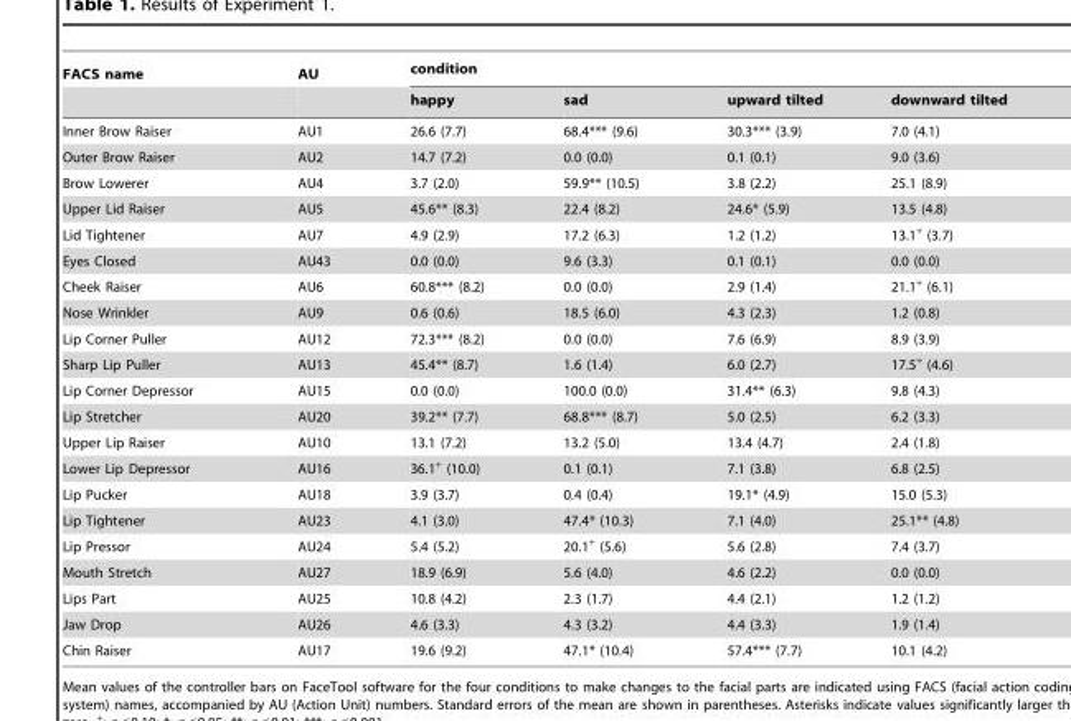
<table><thead><tr><td rowspan="2">FACS name</td><td rowspan="2">AU</td><td colspan="4">condition</td></tr><tr><td>happy</td><td>sad</td><td>upward tilted</td><td>downward tilted</td></tr></thead><tbody><tr><td>Inner Brow Raiser</td><td>AU1</td><td>26.6 (7.7)</td><td>68.4*** (9.6)</td><td>30.3*** (3.9)</td><td>7.0 (4.1)</td></tr><tr><td>Outer Brow Raiser</td><td>AU2</td><td>14.7 (7.2)</td><td>0.0 (0.0)</td><td>0.1 (0.1)</td><td>9.0 (3.6)</td></tr><tr><td>Brow Lowerer</td><td>AU4</td><td>3.7 (2.0)</td><td>59.9** (10.5)</td><td>3.8 (2.2)</td><td>25.1 (8.9)</td></tr><tr><td>Upper Lid Raiser</td><td>AU5</td><td>45.6** (8.3)</td><td>22.4 (8.2)</td><td>24.6* (5.9)</td><td>13.5 (4.8)</td></tr><tr><td>Lid Tightener</td><td>AU7</td><td>4.9 (2.9)</td><td>17.2 (6.3)</td><td>1.2 (1.2)</td><td>13.1<sup>+</sup> (3.7)</td></tr><tr><td>Eyes Closed</td><td>AU43</td><td>0.0 (0.0)</td><td>9.6 (3.3)</td><td>0.1 (0.1)</td><td>0.0 (0.0)</td></tr><tr><td>Cheek Raiser</td><td>AU6</td><td>60.8*** (8.2)</td><td>0.0 (0.0)</td><td>2.9 (1.4)</td><td>21.1<sup>+</sup> (6.1)</td></tr><tr><td>Nose Wrinkler</td><td>AU9</td><td>0.6 (0.6)</td><td>18.5 (6.0)</td><td>4.3 (2.3)</td><td>1.2 (0.8)</td></tr><tr><td>Lip Corner Puller</td><td>AU12</td><td>72.3*** (8.2)</td><td>0.0 (0.0)</td><td>7.6 (6.9)</td><td>8.9 (3.9)</td></tr><tr><td>Sharp Lip Puller</td><td>AU13</td><td>45.4** (8.7)</td><td>1.6 (1.4)</td><td>6.0 (2.7)</td><td>17.5<sup>+</sup> (4.6)</td></tr><tr><td>Lip Corner Depressor</td><td>AU15</td><td>0.0 (0.0)</td><td>100.0 (0.0)</td><td>31.4** (6.3)</td><td>9.8 (4.3)</td></tr><tr><td>Lip Stretcher</td><td>AU20</td><td>39.2** (7.7)</td><td>68.8*** (8.7)</td><td>5.0 (2.5)</td><td>6.2 (3.3)</td></tr><tr><td>Upper Lip Raiser</td><td>AU10</td><td>13.1 (7.2)</td><td>13.2 (5.0)</td><td>13.4 (4.7)</td><td>2.4 (1.8)</td></tr><tr><td>Lower Lip Depressor</td><td>AU16</td><td>36.1<sup>+</sup> (10.0)</td><td>0.1 (0.1)</td><td>7.1 (3.8)</td><td>6.8 (2.5)</td></tr><tr><td>Lip Pucker</td><td>AU18</td><td>3.9 (3.7)</td><td>0.4 (0.4)</td><td>19.1* (4.9)</td><td>15.0 (5.3)</td></tr><tr><td>Lip Tightener</td><td>AU23</td><td>4.1 (3.0)</td><td>47.4* (10.3)</td><td>7.1 (4.0)</td><td>25.1** (4.8)</td></tr><tr><td>Lip Pressor</td><td>AU24</td><td>5.4 (5.2)</td><td>20.1<sup>+</sup> (5.6)</td><td>5.6 (2.8)</td><td>7.4 (3.7)</td></tr><tr><td>Mouth Stretch</td><td>AU27</td><td>18.9 (6.9)</td><td>5.6 (4.0)</td><td>4.6 (2.2)</td><td>0.0 (0.0)</td></tr><tr><td>Lips Part</td><td>AU25</td><td>10.8 (4.2)</td><td>2.3 (1.7)</td><td>4.4 (2.1)</td><td>1.2 (1.2)</td></tr><tr><td>Jaw Drop</td><td>AU26</td><td>4.6 (3.3)</td><td>4.3 (3.2)</td><td>4.4 (3.3)</td><td>1.9 (1.4)</td></tr><tr><td>Chin Raiser</td><td>AU17</td><td>19.6 (9.2)</td><td>47.1* (10.4)</td><td>57.4*** (7.7)</td><td>10.1 (4.2)</td></tr></tbody></table>